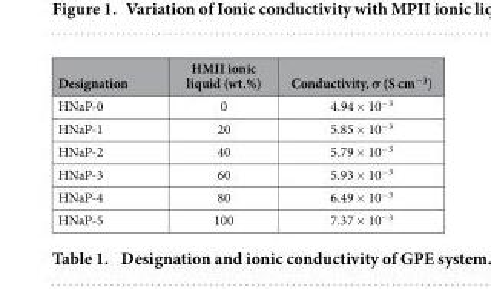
<table><thead><tr><td>Designation</td><td>HMII ionic liquid (wt.%)</td><td>Conductivity, σ (S cm<sup>−1</sup>)</td></tr></thead><tbody><tr><td>HNaP-0</td><td>0</td><td>4.94 × 10<sup>−3</sup></td></tr><tr><td>HNaP-1</td><td>20</td><td>5.85 × 10<sup>−3</sup></td></tr><tr><td>HNaP-2</td><td>40</td><td>5.79 × 10<sup>−3</sup></td></tr><tr><td>HNaP-3</td><td>60</td><td>5.93 × 10<sup>−3</sup></td></tr><tr><td>HNaP-4</td><td>80</td><td>6.49 × 10<sup>−3</sup></td></tr><tr><td>HNaP-5</td><td>100</td><td>7.37 × 10<sup>−3</sup></td></tr></tbody></table>